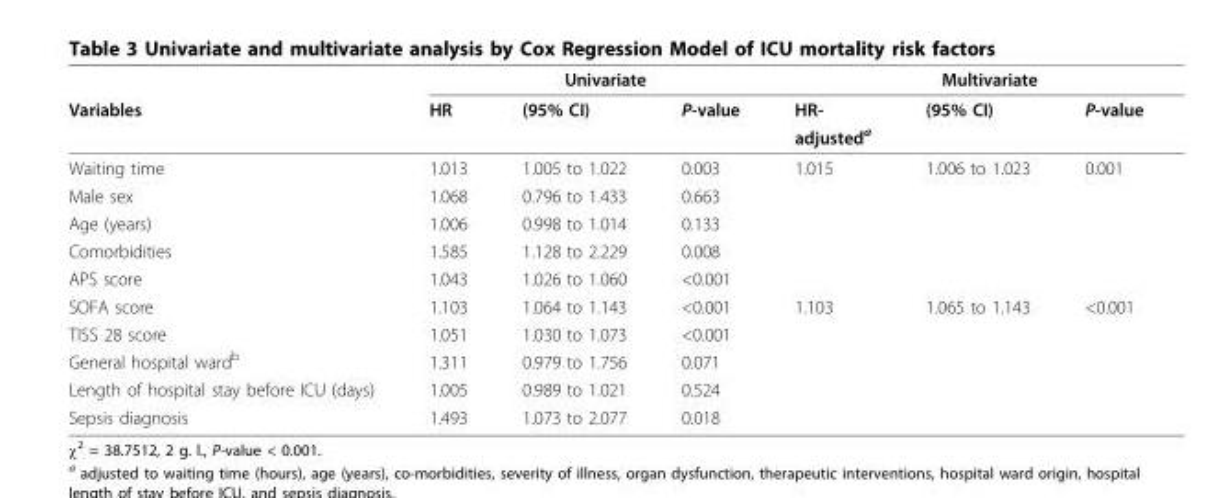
<table><thead><tr><td rowspan="3">Variables</td><td colspan="3">Univariate</td><td colspan="3">Multivariate</td></tr><tr><td rowspan="2">HR</td><td rowspan="2">(95% CI)</td><td rowspan="2">P-value</td><td rowspan="2">HR- adjusted<sup>a</sup></td><td rowspan="2">(95% CI)</td><td rowspan="2">P-value</td></tr><tr></tr></thead><tbody><tr><td>Waiting time</td><td>1.013</td><td>1.005 to 1.022</td><td>0.003</td><td>1.015</td><td>1.006 to 1.023</td><td>0.001</td></tr><tr><td>Male sex</td><td>1.068</td><td>0.796 to 1.433</td><td>0.663</td><td></td><td></td><td></td></tr><tr><td>Age (years)</td><td>1.006</td><td>0.998 to 1.014</td><td>0.133</td><td></td><td></td><td></td></tr><tr><td>Comorbidities</td><td>1.585</td><td>1.128 to 2.229</td><td>0.008</td><td></td><td></td><td></td></tr><tr><td>APS score</td><td>1.043</td><td>1.026 to 1.060</td><td>&lt;0.001</td><td></td><td></td><td></td></tr><tr><td>SOFA score</td><td>1.103</td><td>1.064 to 1.143</td><td>&lt;0.001</td><td>1.103</td><td>1.065 to 1.143</td><td>&lt;0.001</td></tr><tr><td>TISS 28 score</td><td>1.051</td><td>1.030 to 1.073</td><td>&lt;0.001</td><td></td><td></td><td></td></tr><tr><td>General hospital ward<sup>b</sup></td><td>1.311</td><td>0.979 to 1.756</td><td>0.071</td><td></td><td></td><td></td></tr><tr><td>Length of hospital stay before ICU (days)</td><td>1.005</td><td>0.989 to 1.021</td><td>0.524</td><td></td><td></td><td></td></tr><tr><td>Sepsis diagnosis</td><td>1.493</td><td>1.073 to 2.077</td><td>0.018</td><td></td><td></td><td></td></tr></tbody></table>